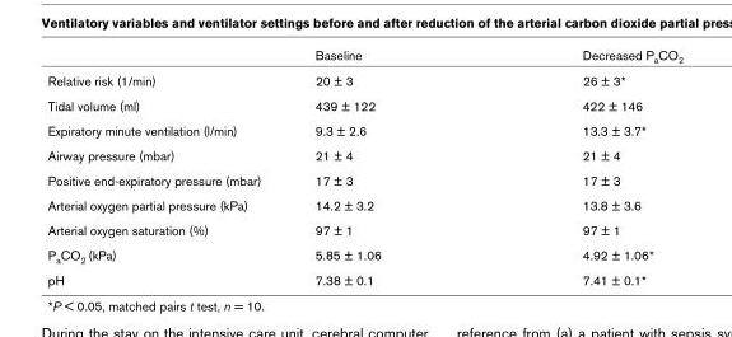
<table><thead><tr><td></td><td>Baseline</td><td>Decreased P<sub>a</sub>CO<sub>2</sub></td></tr></thead><tbody><tr><td>Relative risk (1/min)</td><td>20 ± 3</td><td>26 ± 3*</td></tr><tr><td>Tidal volume (ml)</td><td>439 ± 122</td><td>422 ± 146</td></tr><tr><td>Expiratory minute ventilation (l/min)</td><td>9.3 ± 2.6</td><td>13.3 ± 3.7*</td></tr><tr><td>Airway pressure (mbar)</td><td>21 ± 4</td><td>21 ± 4</td></tr><tr><td>Positive end-expiratory pressure (mbar)</td><td>17 ± 3</td><td>17 ± 3</td></tr><tr><td>Arterial oxygen partial pressure (kPa)</td><td>14.2 ± 3.2</td><td>13.8 ± 3.6</td></tr><tr><td>Arterial oxygen saturation (%)</td><td>97 ± 1</td><td>97 ± 1</td></tr><tr><td>P<sub>a</sub>CO<sub>2</sub> (kPa)</td><td>5.85 ± 1.06</td><td>4.92 ± 1.06*</td></tr><tr><td>pH</td><td>7.38 ± 0.1</td><td>7.41 ± 0.1*</td></tr></tbody></table>